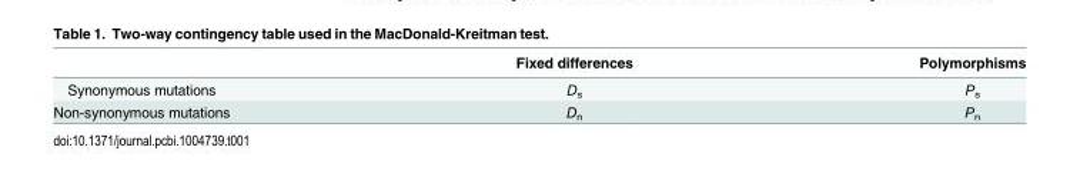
<table><thead><tr><td></td><td>Fixed differences</td><td>Polymorphisms</td></tr></thead><tbody><tr><td>Synonymous mutations</td><td>D<sub>s</sub></td><td>P<sub>s</sub></td></tr><tr><td>Non-synonymous mutations</td><td>D<sub>n</sub></td><td>P<sub>n</sub></td></tr></tbody></table>